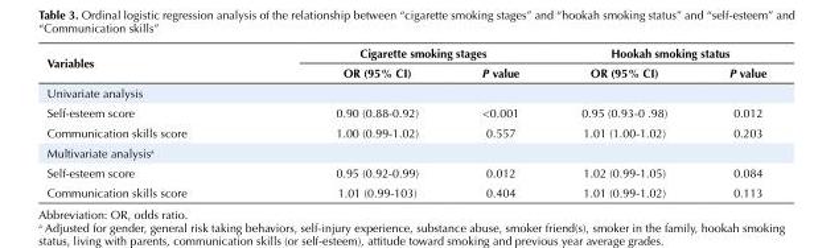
<table><tbody><tr><td rowspan="2">Variables</td><td colspan="2">Cigarette smoking stages</td><td colspan="2">Hookah smoking status</td></tr><tr><td>OR (95% CI)</td><td>P value</td><td>OR (95% CI)</td><td>P value</td></tr><tr><td colspan="5">Univariate analysis</td></tr><tr><td>Self-esteem score</td><td>0.90 (0.88-0.92)</td><td>&lt;0.001</td><td>0.95 (0.93-0 .98)</td><td>0.012</td></tr><tr><td>Communication skills score</td><td>1.00 (0.99-1.02)</td><td>0.557</td><td>1.01 (1.00-1.02)</td><td>0.203</td></tr><tr><td colspan="5">Multivariate analysis<sup>a</sup></td></tr><tr><td>Self-esteem score</td><td>0.95 (0.92-0.99)</td><td>0.012</td><td>1.02 (0.99-1.05)</td><td>0.084</td></tr><tr><td>Communication skills score</td><td>1.01 (0.99-103)</td><td>0.404</td><td>1.01 (0.99-1.02)</td><td>0.113</td></tr></tbody></table>